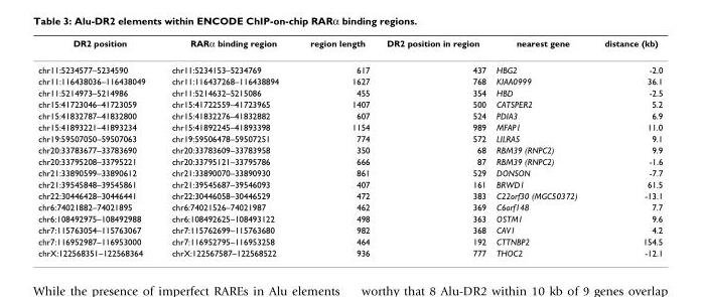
<table><thead><tr><td>DR2 position</td><td>RARα binding region</td><td>region length</td><td>DR2 position in region</td><td>nearest gene</td><td>distance (kb)</td></tr></thead><tbody><tr><td>chr11:5234577–5234590</td><td>chr11:5234153–5234769</td><td>617</td><td>437</td><td>HBG2</td><td>-2.0</td></tr><tr><td>chr11:116438036–116438049</td><td>chr11:116437268–116438894</td><td>1627</td><td>768</td><td>KIAA0999</td><td>36.1</td></tr><tr><td>chr11:5214973–5214986</td><td>chr11:5214632–5215086</td><td>455</td><td>354</td><td>HBD</td><td>-2.5</td></tr><tr><td>chr15:41723046–41723059</td><td>chr15:41722559–41723965</td><td>1407</td><td>500</td><td>CATSPER2</td><td>5.2</td></tr><tr><td>chr15:41832787–41832800</td><td>chr15:41832276–41832882</td><td>607</td><td>524</td><td>PDIA3</td><td>6.9</td></tr><tr><td>chr15:41893221–41893234</td><td>chr15:41892245–41893398</td><td>1154</td><td>989</td><td>MFAP1</td><td>11.0</td></tr><tr><td>chr19:59507050–59507063</td><td>chr19:59506478–59507251</td><td>774</td><td>572</td><td>LILRA5</td><td>9.1</td></tr><tr><td>chr20:33783677–33783690</td><td>chr20:33783609–33783958</td><td>350</td><td>68</td><td>RBM39 (RNPC2)</td><td>9.9</td></tr><tr><td>chr20:33795208–33795221</td><td>chr20:33795121–33795786</td><td>666</td><td>87</td><td>RBM39 (RNPC2)</td><td>-1.6</td></tr><tr><td>chr21:33890599–33890612</td><td>chr21:33890070–33890930</td><td>861</td><td>529</td><td>DONSON</td><td>-7.7</td></tr><tr><td>chr21:39545848–39545861</td><td>chr21:39545687–39546093</td><td>407</td><td>161</td><td>BRWD1</td><td>61.5</td></tr><tr><td>chr22:30446428–30446441</td><td>chr22:30446058–30446529</td><td>472</td><td>383</td><td>C22orf30 (MGC50372)</td><td>-13.1</td></tr><tr><td>chr6:74021882–74021895</td><td>chr6:74021526–74021987</td><td>462</td><td>369</td><td>C6orf148</td><td>7.7</td></tr><tr><td>chr6:108492975–108492988</td><td>chr6:108492625–108493122</td><td>498</td><td>363</td><td>OSTM1</td><td>9.6</td></tr><tr><td>chr7:115763054–115763067</td><td>chr7:115762699–115763680</td><td>982</td><td>368</td><td>CAV1</td><td>4.2</td></tr><tr><td>chr7:116952987–116953000</td><td>chr7:116952795–116953258</td><td>464</td><td>192</td><td>CTTNBP2</td><td>154.5</td></tr><tr><td>chrX:122568351–122568364</td><td>chrX:122567587–122568522</td><td>936</td><td>777</td><td>THOC2</td><td>-12.1</td></tr></tbody></table>